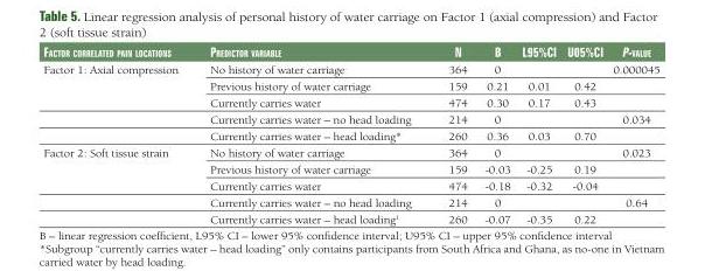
<table><thead><tr><td>factor correlated Pain locationS</td><td>Predictor Variable</td><td>n</td><td>b</td><td>l95%ci</td><td>u05%ci</td><td>P-Value</td></tr></thead><tbody><tr><td rowspan="5">Factor 1: Axial compression</td><td>No history of water carriage</td><td>364</td><td>0</td><td></td><td></td><td>0.000045</td></tr><tr><td>Previous history of water carriage</td><td>159</td><td>0.21</td><td>0.01</td><td>0.42</td><td></td></tr><tr><td>Currently carries water</td><td>474</td><td>0.30</td><td>0.17</td><td>0.43</td><td></td></tr><tr><td>Currently carries water – no head loading</td><td>214</td><td>0</td><td></td><td></td><td>0.034</td></tr><tr><td>Currently carries water – head loading*</td><td>260</td><td>0.36</td><td>0.03</td><td>0.70</td><td></td></tr><tr><td rowspan="5">Factor 2: Soft tissue strain</td><td>No history of water carriage</td><td>364</td><td>0</td><td></td><td></td><td>0.023</td></tr><tr><td>Previous history of water carriage</td><td>159</td><td>-0.03</td><td>-0.25</td><td>0.19</td><td></td></tr><tr><td>Currently carries water</td><td>474</td><td>-0.18</td><td>-0.32</td><td>-0.04</td><td></td></tr><tr><td>Currently carries water – no head loading</td><td>214</td><td>0</td><td></td><td></td><td>0.64</td></tr><tr><td>Currently carries water – head loading<sup>1</sup></td><td>260</td><td>-0.07</td><td>-0.35</td><td>0.22</td><td></td></tr></tbody></table>